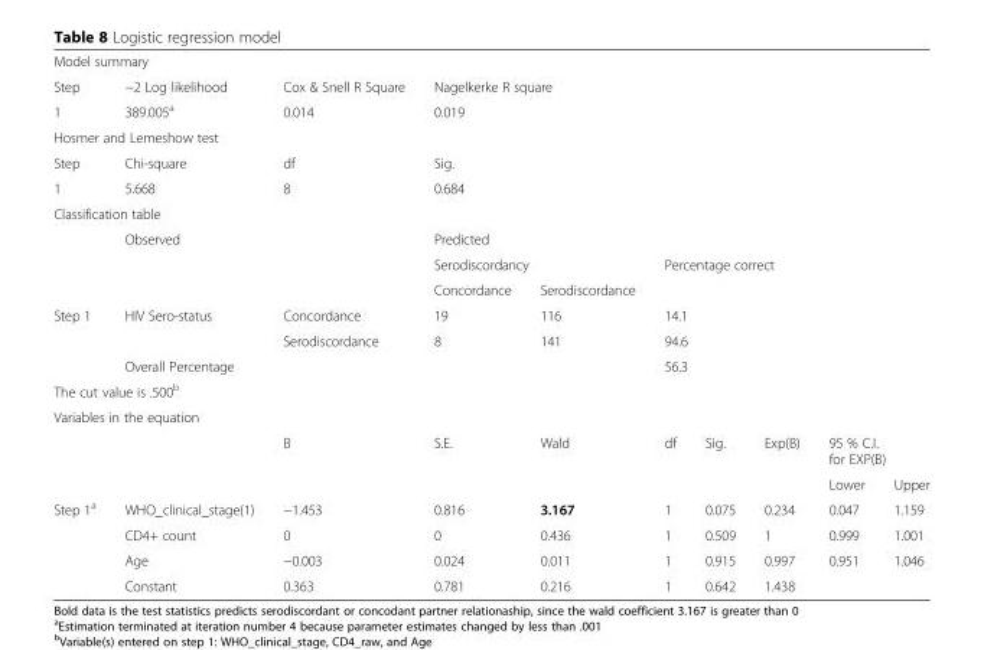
<table><tbody><tr><td colspan="10">Model summary</td></tr><tr><td>Step</td><td>−2 Log likelihood</td><td>Cox &amp; Snell R Square</td><td colspan="7">Nagelkerke R square</td></tr><tr><td>1</td><td>389.005<sup>a</sup></td><td>0.014</td><td colspan="7">0.019</td></tr><tr><td colspan="10">Hosmer and Lemeshow test</td></tr><tr><td>Step</td><td>Chi-square</td><td>df</td><td colspan="7">Sig.</td></tr><tr><td>1</td><td>5.668</td><td>8</td><td colspan="7">0.684</td></tr><tr><td colspan="10">Classification table</td></tr><tr><td></td><td colspan="2">Observed</td><td colspan="7">Predicted</td></tr><tr><td rowspan="2"></td><td rowspan="2" colspan="2"></td><td colspan="2">Serodiscordancy</td><td rowspan="2" colspan="5">Percentage correct</td></tr><tr><td>Concordance</td><td>Serodiscordance</td></tr><tr><td rowspan="3">Step 1</td><td rowspan="2">HIV Sero-status</td><td>Concordance</td><td>19</td><td>116</td><td colspan="5">14.1</td></tr><tr><td>Serodiscordance</td><td>8</td><td>141</td><td colspan="5">94.6</td></tr><tr><td colspan="2">Overall Percentage</td><td></td><td></td><td colspan="5">56.3</td></tr><tr><td colspan="10">The cut value is .500<sup>b</sup></td></tr><tr><td colspan="10">Variables in the equation</td></tr><tr><td rowspan="2" colspan="2"></td><td rowspan="2">B</td><td rowspan="2">S.E.</td><td rowspan="2">Wald</td><td rowspan="2">df</td><td rowspan="2">Sig.</td><td rowspan="2">Exp(B)</td><td colspan="2">95 % C.I. for EXP(B)</td></tr><tr><td>Lower</td><td>Upper</td></tr><tr><td rowspan="4">Step 1<sup>a</sup></td><td>WHO_clinical_stage(1)</td><td>−1.453</td><td>0.816</td><td>3.167</td><td>1</td><td>0.075</td><td>0.234</td><td>0.047</td><td>1.159</td></tr><tr><td>CD4+ count</td><td>0</td><td>0</td><td>0.436</td><td>1</td><td>0.509</td><td>1</td><td>0.999</td><td>1.001</td></tr><tr><td>Age</td><td>−0.003</td><td>0.024</td><td>0.011</td><td>1</td><td>0.915</td><td>0.997</td><td>0.951</td><td>1.046</td></tr><tr><td>Constant</td><td>0.363</td><td>0.781</td><td>0.216</td><td>1</td><td>0.642</td><td>1.438</td><td></td><td></td></tr></tbody></table>